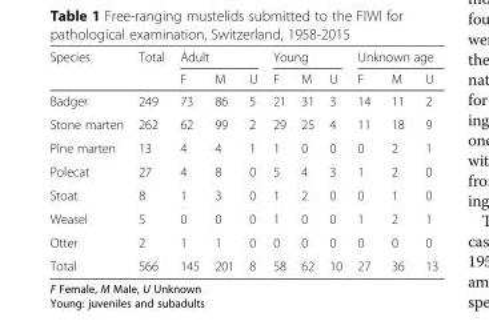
<table><thead><tr><td rowspan="2">Species</td><td rowspan="2">Total</td><td colspan="3">Adult</td><td colspan="3">Young</td><td colspan="3">Unknown age</td></tr><tr><td>F</td><td>M</td><td>U</td><td>F</td><td>M</td><td>U</td><td>F</td><td>M</td><td>U</td></tr></thead><tbody><tr><td>Badger</td><td>249</td><td>73</td><td>86</td><td>5</td><td>21</td><td>31</td><td>3</td><td>14</td><td>11</td><td>2</td></tr><tr><td>Stone marten</td><td>262</td><td>62</td><td>99</td><td>2</td><td>29</td><td>25</td><td>4</td><td>11</td><td>18</td><td>9</td></tr><tr><td>Pine marten</td><td>13</td><td>4</td><td>4</td><td>1</td><td>1</td><td>0</td><td>0</td><td>0</td><td>2</td><td>1</td></tr><tr><td>Polecat</td><td>27</td><td>4</td><td>8</td><td>0</td><td>5</td><td>4</td><td>3</td><td>1</td><td>2</td><td>0</td></tr><tr><td>Stoat</td><td>8</td><td>1</td><td>3</td><td>0</td><td>1</td><td>2</td><td>0</td><td>0</td><td>1</td><td>0</td></tr><tr><td>Weasel</td><td>5</td><td>0</td><td>0</td><td>0</td><td>1</td><td>0</td><td>0</td><td>1</td><td>2</td><td>1</td></tr><tr><td>Otter</td><td>2</td><td>1</td><td>1</td><td>0</td><td>0</td><td>0</td><td>0</td><td>0</td><td>0</td><td>0</td></tr><tr><td>Total</td><td>566</td><td>145</td><td>201</td><td>8</td><td>58</td><td>62</td><td>10</td><td>27</td><td>36</td><td>13</td></tr></tbody></table>